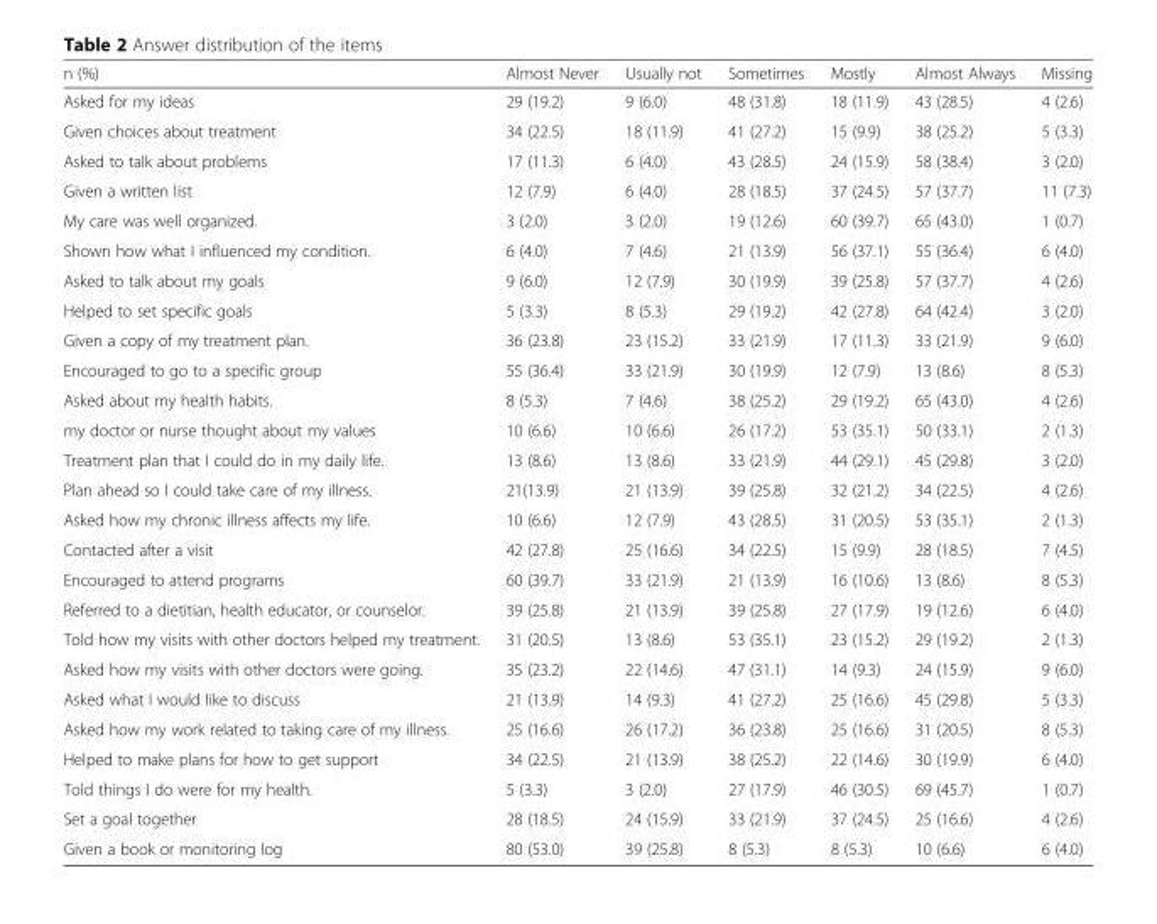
<table><thead><tr><td>n (%)</td><td>Almost Never</td><td>Usually not</td><td>Sometimes</td><td>Mostly</td><td>Almost Always</td><td>Missing</td></tr></thead><tbody><tr><td>Asked for my ideas</td><td>29 (19.2)</td><td>9 (6.0)</td><td>48 (31.8)</td><td>18 (11.9)</td><td>43 (28.5)</td><td>4 (2.6)</td></tr><tr><td>Given choices about treatment</td><td>34 (22.5)</td><td>18 (11.9)</td><td>41 (27.2)</td><td>15 (9.9)</td><td>38 (25.2)</td><td>5 (3.3)</td></tr><tr><td>Asked to talk about problems</td><td>17 (11.3)</td><td>6 (4.0)</td><td>43 (28.5)</td><td>24 (15.9)</td><td>58 (38.4)</td><td>3 (2.0)</td></tr><tr><td>Given a written list</td><td>12 (7.9)</td><td>6 (4.0)</td><td>28 (18.5)</td><td>37 (24.5)</td><td>57 (37.7)</td><td>11 (7.3)</td></tr><tr><td>My care was well organized.</td><td>3 (2.0)</td><td>3 (2.0)</td><td>19 (12.6)</td><td>60 (39.7)</td><td>65 (43.0)</td><td>1 (0.7)</td></tr><tr><td>Shown how what I influenced my condition.</td><td>6 (4.0)</td><td>7 (4.6)</td><td>21 (13.9)</td><td>56 (37.1)</td><td>55 (36.4)</td><td>6 (4.0)</td></tr><tr><td>Asked to talk about my goals</td><td>9 (6.0)</td><td>12 (7.9)</td><td>30 (19.9)</td><td>39 (25.8)</td><td>57 (37.7)</td><td>4 (2.6)</td></tr><tr><td>Helped to set specific goals</td><td>5 (3.3)</td><td>8 (5.3)</td><td>29 (19.2)</td><td>42 (27.8)</td><td>64 (42.4)</td><td>3 (2.0)</td></tr><tr><td>Given a copy of my treatment plan.</td><td>36 (23.8)</td><td>23 (15.2)</td><td>33 (21.9)</td><td>17 (11.3)</td><td>33 (21.9)</td><td>9 (6.0)</td></tr><tr><td>Encouraged to go to a specific group</td><td>55 (36.4)</td><td>33 (21.9)</td><td>30 (19.9)</td><td>12 (7.9)</td><td>13 (8.6)</td><td>8 (5.3)</td></tr><tr><td>Asked about my health habits.</td><td>8 (5.3)</td><td>7 (4.6)</td><td>38 (25.2)</td><td>29 (19.2)</td><td>65 (43.0)</td><td>4 (2.6)</td></tr><tr><td>my doctor or nurse thought about my values</td><td>10 (6.6)</td><td>10 (6.6)</td><td>26 (17.2)</td><td>53 (35.1)</td><td>50 (33.1)</td><td>2 (1.3)</td></tr><tr><td>Treatment plan that I could do in my daily life.</td><td>13 (8.6)</td><td>13 (8.6)</td><td>33 (21.9)</td><td>44 (29.1)</td><td>45 (29.8)</td><td>3 (2.0)</td></tr><tr><td>Plan ahead so I could take care of my illness.</td><td>21(13.9)</td><td>21 (13.9)</td><td>39 (25.8)</td><td>32 (21.2)</td><td>34 (22.5)</td><td>4 (2.6)</td></tr><tr><td>Asked how my chronic illness affects my life.</td><td>10 (6.6)</td><td>12 (7.9)</td><td>43 (28.5)</td><td>31 (20.5)</td><td>53 (35.1)</td><td>2 (1.3)</td></tr><tr><td>Contacted after a visit</td><td>42 (27.8)</td><td>25 (16.6)</td><td>34 (22.5)</td><td>15 (9.9)</td><td>28 (18.5)</td><td>7 (4.5)</td></tr><tr><td>Encouraged to attend programs</td><td>60 (39.7)</td><td>33 (21.9)</td><td>21 (13.9)</td><td>16 (10.6)</td><td>13 (8.6)</td><td>8 (5.3)</td></tr><tr><td>Referred to a dietitian, health educator, or counselor.</td><td>39 (25.8)</td><td>21 (13.9)</td><td>39 (25.8)</td><td>27 (17.9)</td><td>19 (12.6)</td><td>6 (4.0)</td></tr><tr><td>Told how my visits with other doctors helped my treatment.</td><td>31 (20.5)</td><td>13 (8.6)</td><td>53 (35.1)</td><td>23 (15.2)</td><td>29 (19.2)</td><td>2 (1.3)</td></tr><tr><td>Asked how my visits with other doctors were going.</td><td>35 (23.2)</td><td>22 (14.6)</td><td>47 (31.1)</td><td>14 (9.3)</td><td>24 (15.9)</td><td>9 (6.0)</td></tr><tr><td>Asked what I would like to discuss</td><td>21 (13.9)</td><td>14 (9.3)</td><td>41 (27.2)</td><td>25 (16.6)</td><td>45 (29.8)</td><td>5 (3.3)</td></tr><tr><td>Asked how my work related to taking care of my illness.</td><td>25 (16.6)</td><td>26 (17.2)</td><td>36 (23.8)</td><td>25 (16.6)</td><td>31 (20.5)</td><td>8 (5.3)</td></tr><tr><td>Helped to make plans for how to get support</td><td>34 (22.5)</td><td>21 (13.9)</td><td>38 (25.2)</td><td>22 (14.6)</td><td>30 (19.9)</td><td>6 (4.0)</td></tr><tr><td>Told things I do were for my health.</td><td>5 (3.3)</td><td>3 (2.0)</td><td>27 (17.9)</td><td>46 (30.5)</td><td>69 (45.7)</td><td>1 (0.7)</td></tr><tr><td>Set a goal together</td><td>28 (18.5)</td><td>24 (15.9)</td><td>33 (21.9)</td><td>37 (24.5)</td><td>25 (16.6)</td><td>4 (2.6)</td></tr><tr><td>Given a book or monitoring log</td><td>80 (53.0)</td><td>39 (25.8)</td><td>8 (5.3)</td><td>8 (5.3)</td><td>10 (6.6)</td><td>6 (4.0)</td></tr></tbody></table>